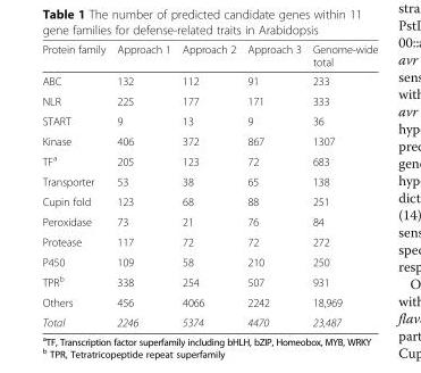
<table><thead><tr><td>Protein family</td><td>Approach 1</td><td>Approach 2</td><td>Approach 3</td><td>Genome-wide total</td></tr></thead><tbody><tr><td>ABC</td><td>132</td><td>112</td><td>91</td><td>233</td></tr><tr><td>NLR</td><td>225</td><td>177</td><td>171</td><td>333</td></tr><tr><td>START</td><td>9</td><td>13</td><td>9</td><td>36</td></tr><tr><td>Kinase</td><td>406</td><td>372</td><td>867</td><td>1307</td></tr><tr><td>TF<sup>a</sup></td><td>205</td><td>123</td><td>72</td><td>683</td></tr><tr><td>Transporter</td><td>53</td><td>38</td><td>65</td><td>138</td></tr><tr><td>Cupin fold</td><td>123</td><td>68</td><td>88</td><td>251</td></tr><tr><td>Peroxidase</td><td>73</td><td>21</td><td>76</td><td>84</td></tr><tr><td>Protease</td><td>117</td><td>72</td><td>72</td><td>272</td></tr><tr><td>P450</td><td>109</td><td>58</td><td>210</td><td>250</td></tr><tr><td>TPR<sup>b</sup></td><td>338</td><td>254</td><td>507</td><td>931</td></tr><tr><td>Others</td><td>456</td><td>4066</td><td>2242</td><td>18,969</td></tr><tr><td>Total</td><td>2246</td><td>5374</td><td>4470</td><td>23,487</td></tr></tbody></table>